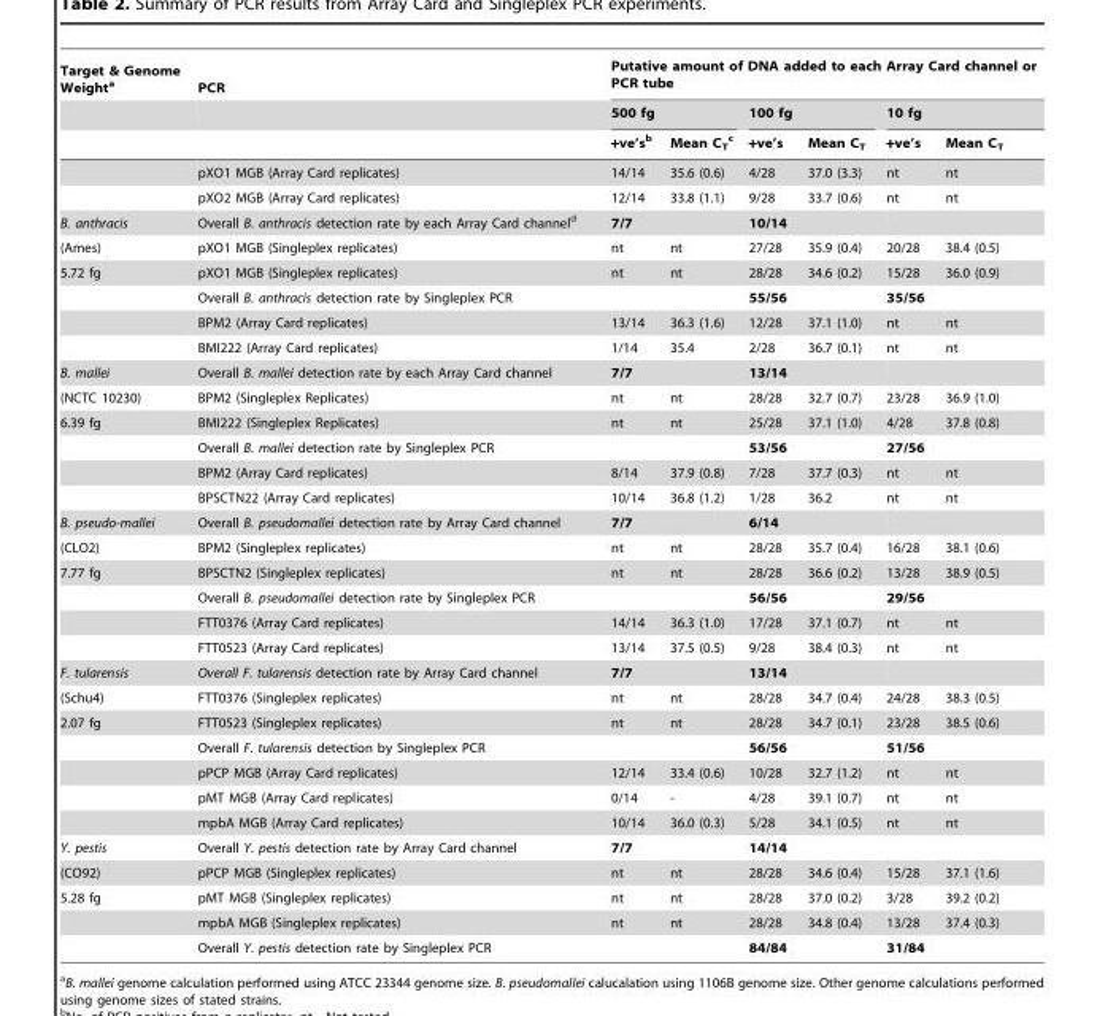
<table><thead><tr><td rowspan="3">Target &amp; Genome Weight<sup>a</sup></td><td rowspan="3">PCR</td><td colspan="6">Putative amount of DNA added to each Array Card channel or PCR tube</td></tr><tr><td colspan="2">500 fg</td><td colspan="2">100 fg</td><td colspan="2">10 fg</td></tr><tr><td>+ve’s<sup>b</sup></td><td>Mean C<sub>T</sub> c</td><td>+ve’s</td><td>Mean C<sub>T</sub></td><td>+ve’s</td><td>Mean C<sub>T</sub></td></tr></thead><tbody><tr><td></td><td>pXO1 MGB (Array Card replicates)</td><td>14/14</td><td>35.6 (0.6)</td><td>4/28</td><td>37.0 (3.3)</td><td>nt</td><td>nt</td></tr><tr><td></td><td>pXO2 MGB (Array Card replicates)</td><td>12/14</td><td>33.8 (1.1)</td><td>9/28</td><td>33.7 (0.6)</td><td>nt</td><td>nt</td></tr><tr><td>B. anthracis</td><td>Overall B. anthracis detection rate by each Array Card channel<sup>d</sup></td><td colspan="2">7/7</td><td colspan="2">10/14</td><td colspan="2"></td></tr><tr><td>(Ames)</td><td>pXO1 MGB (Singleplex replicates)</td><td>nt</td><td>nt</td><td>27/28</td><td>35.9 (0.4)</td><td>20/28</td><td>38.4 (0.5)</td></tr><tr><td rowspan="4">5.72 fg</td><td>pXO1 MGB (Singleplex replicates)</td><td>nt</td><td>nt</td><td>28/28</td><td>34.6 (0.2)</td><td>15/28</td><td>36.0 (0.9)</td></tr><tr><td>Overall B. anthracis detection rate by Singleplex PCR</td><td colspan="2"></td><td colspan="2">55/56</td><td colspan="2">35/56</td></tr><tr><td>BPM2 (Array Card replicates)</td><td>13/14</td><td>36.3 (1.6)</td><td>12/28</td><td>37.1 (1.0)</td><td>nt</td><td>nt</td></tr><tr><td>BMI222 (Array Card replicates)</td><td>1/14</td><td>35.4</td><td>2/28</td><td>36.7 (0.1)</td><td>nt</td><td>nt</td></tr><tr><td>B. mallei</td><td>Overall B. mallei detection rate by each Array Card channel</td><td colspan="2">7/7</td><td colspan="2">13/14</td><td colspan="2"></td></tr><tr><td>(NCTC 10230)</td><td>BPM2 (Singleplex Replicates)</td><td>nt</td><td>nt</td><td>28/28</td><td>32.7 (0.7)</td><td>23/28</td><td>36.9 (1.0)</td></tr><tr><td rowspan="4">6.39 fg</td><td>BMI222 (Singleplex Replicates)</td><td>nt</td><td>nt</td><td>25/28</td><td>37.1 (1.0)</td><td>4/28</td><td>37.8 (0.8)</td></tr><tr><td>Overall B. mallei detection rate by Singleplex PCR</td><td colspan="2"></td><td colspan="2">53/56</td><td colspan="2">27/56</td></tr><tr><td>BPM2 (Array Card replicates)</td><td>8/14</td><td>37.9 (0.8)</td><td>7/28</td><td>37.7 (0.3)</td><td>nt</td><td>nt</td></tr><tr><td>BPSCTN22 (Array Card replicates)</td><td>10/14</td><td>36.8 (1.2)</td><td>1/28</td><td>36.2</td><td>nt</td><td>nt</td></tr><tr><td>B. pseudo-mallei</td><td>Overall B. pseudomallei detection rate by Array Card channel</td><td colspan="2">7/7</td><td colspan="2">6/14</td><td colspan="2"></td></tr><tr><td>(CLO2)</td><td>BPM2 (Singleplex replicates)</td><td>nt</td><td>nt</td><td>28/28</td><td>35.7 (0.4)</td><td>16/28</td><td>38.1 (0.6)</td></tr><tr><td rowspan="4">7.77 fg</td><td>BPSCTN2 (Singleplex replicates)</td><td>nt</td><td>nt</td><td>28/28</td><td>36.6 (0.2)</td><td>13/28</td><td>38.9 (0.5)</td></tr><tr><td>Overall B. pseudomallei detection rate by Singleplex PCR</td><td colspan="2"></td><td colspan="2">56/56</td><td colspan="2">29/56</td></tr><tr><td>FTT0376 (Array Card replicates)</td><td>14/14</td><td>36.3 (1.0)</td><td>17/28</td><td>37.1 (0.7)</td><td>nt</td><td>nt</td></tr><tr><td>FTT0523 (Array Card replicates)</td><td>13/14</td><td>37.5 (0.5)</td><td>9/28</td><td>38.4 (0.3)</td><td>nt</td><td>nt</td></tr><tr><td>F. tularensis</td><td>Overall F. tularensis detection rate by Array Card channel</td><td colspan="2">7/7</td><td colspan="2">13/14</td><td colspan="2"></td></tr><tr><td>(Schu4)</td><td>FTT0376 (Singleplex replicates)</td><td>nt</td><td>nt</td><td>28/28</td><td>34.7 (0.4)</td><td>24/28</td><td>38.3 (0.5)</td></tr><tr><td rowspan="5">2.07 fg</td><td>FTT0523 (Singleplex replicates)</td><td>nt</td><td>nt</td><td>28/28</td><td>34.7 (0.1)</td><td>23/28</td><td>38.5 (0.6)</td></tr><tr><td>Overall F. tularensis detection by Singleplex PCR</td><td colspan="2"></td><td colspan="2">56/56</td><td colspan="2">51/56</td></tr><tr><td>pPCP MGB (Array Card replicates)</td><td>12/14</td><td>33.4 (0.6)</td><td>10/28</td><td>32.7 (1.2)</td><td>nt</td><td>nt</td></tr><tr><td>pMT MGB (Array Card replicates)</td><td>0/14</td><td>-</td><td>4/28</td><td>39.1 (0.7)</td><td>nt</td><td>nt</td></tr><tr><td>mpbA MGB (Array Card replicates)</td><td>10/14</td><td>36.0 (0.3)</td><td>5/28</td><td>34.1 (0.5)</td><td>nt</td><td>nt</td></tr><tr><td>Y. pestis</td><td>Overall Y. pestis detection rate by Array Card channel</td><td colspan="2">7/7</td><td colspan="2">14/14</td><td colspan="2"></td></tr><tr><td>(CO92)</td><td>pPCP MGB (Singleplex replicates)</td><td>nt</td><td>nt</td><td>28/28</td><td>34.6 (0.4)</td><td>15/28</td><td>37.1 (1.6)</td></tr><tr><td rowspan="3">5.28 fg</td><td>pMT MGB (Singleplex replicates)</td><td>nt</td><td>nt</td><td>28/28</td><td>37.0 (0.2)</td><td>3/28</td><td>39.2 (0.2)</td></tr><tr><td>mpbA MGB (Singleplex replicates)</td><td>nt</td><td>nt</td><td>28/28</td><td>34.8 (0.4)</td><td>13/28</td><td>37.4 (0.3)</td></tr><tr><td>Overall Y. pestis detection rate by Singleplex PCR</td><td colspan="2"></td><td colspan="2">84/84</td><td colspan="2">31/84</td></tr></tbody></table>